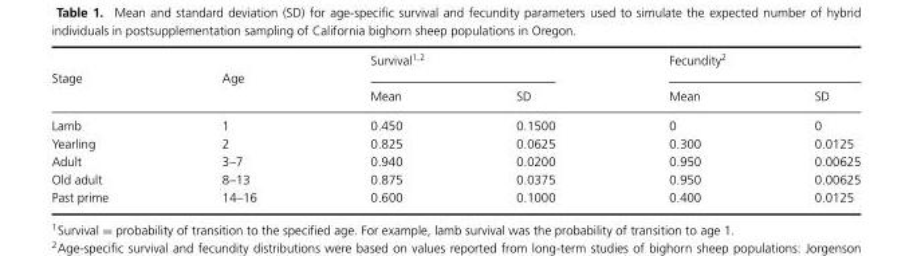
<table><thead><tr><td rowspan="2">Stage</td><td rowspan="2">Age</td><td colspan="2">Survival<sup>1</sup>,<sup>2</sup></td><td colspan="2">Fecundity<sup>2</sup></td></tr><tr><td>Mean</td><td>SD</td><td>Mean</td><td>SD</td></tr></thead><tbody><tr><td>Lamb</td><td>1</td><td>0.450</td><td>0.1500</td><td>0</td><td>0</td></tr><tr><td>Yearling</td><td>2</td><td>0.825</td><td>0.0625</td><td>0.300</td><td>0.0125</td></tr><tr><td>Adult</td><td>3–7</td><td>0.940</td><td>0.0200</td><td>0.950</td><td>0.00625</td></tr><tr><td>Old adult</td><td>8–13</td><td>0.875</td><td>0.0375</td><td>0.950</td><td>0.00625</td></tr><tr><td>Past prime</td><td>14–16</td><td>0.600</td><td>0.1000</td><td>0.400</td><td>0.0125</td></tr></tbody></table>